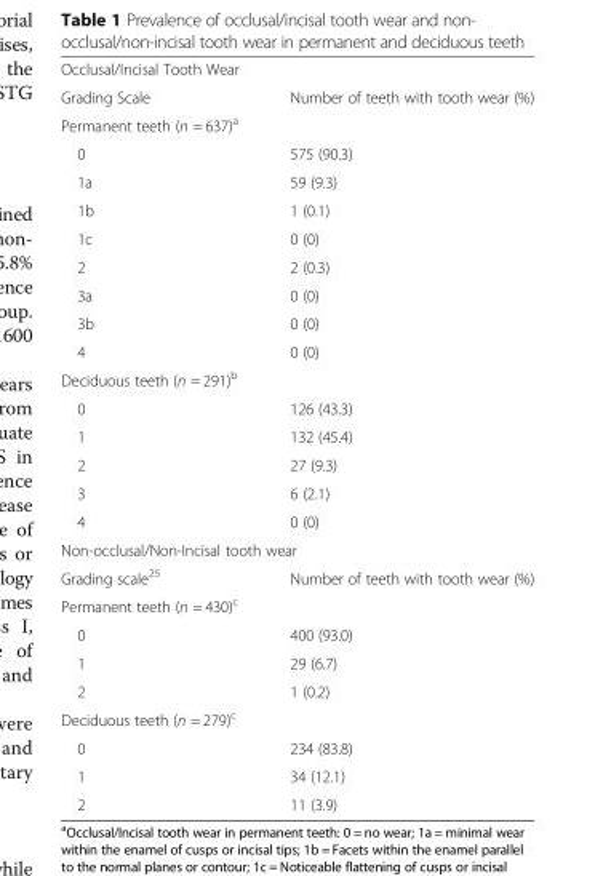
<table><tbody><tr><td colspan="2">Occlusal/Incisal Tooth Wear</td></tr><tr><td>Grading Scale</td><td>Number of teeth with tooth wear (%)</td></tr><tr><td colspan="2">Permanent teeth (n = 637)<sup>a</sup></td></tr><tr><td>0</td><td>575 (90.3)</td></tr><tr><td>1a</td><td>59 (9.3)</td></tr><tr><td>1b</td><td>1 (0.1)</td></tr><tr><td>1c</td><td>0 (0)</td></tr><tr><td>2</td><td>2 (0.3)</td></tr><tr><td>3a</td><td>0 (0)</td></tr><tr><td>3b</td><td>0 (0)</td></tr><tr><td>4</td><td>0 (0)</td></tr><tr><td colspan="2">Deciduous teeth (n = 291)<sup>b</sup></td></tr><tr><td>0</td><td>126 (43.3)</td></tr><tr><td>1</td><td>132 (45.4)</td></tr><tr><td>2</td><td>27 (9.3)</td></tr><tr><td>3</td><td>6 (2.1)</td></tr><tr><td>4</td><td>0 (0)</td></tr><tr><td colspan="2">Non-occlusal/Non-Incisal tooth wear</td></tr><tr><td>Grading scale<sup>25</sup></td><td>Number of teeth with tooth wear (%)</td></tr><tr><td colspan="2">Permanent teeth (n = 430)<sup>c</sup></td></tr><tr><td>0</td><td>400 (93.0)</td></tr><tr><td>1</td><td>29 (6.7)</td></tr><tr><td>2</td><td>1 (0.2)</td></tr><tr><td colspan="2">Deciduous teeth (n = 279)<sup>c</sup></td></tr><tr><td>0</td><td>234 (83.8)</td></tr><tr><td>1</td><td>34 (12.1)</td></tr><tr><td>2</td><td>11 (3.9)</td></tr></tbody></table>